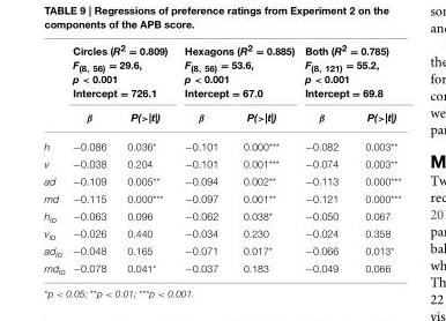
<table><thead><tr><td rowspan="2"></td><td colspan="2">Circles (R<sup>2</sup> = 0.809) F<sub>(8, 56)</sub> = 29.6, p &lt; 0.001 Intercept = 726.1</td><td colspan="2">Hexagons (R<sup>2</sup> = 0.885) F<sub>(8, 56)</sub> = 53.6, p &lt; 0.001 Intercept = 67.0</td><td colspan="2">Both (R<sup>2</sup> = 0.785) F<sub>(8, 121)</sub> = 55.2, p &lt; 0.001 Intercept = 69.8</td></tr><tr><td>β</td><td>P(&gt;|t|)</td><td>β</td><td>P(&gt;|t|)</td><td>β</td><td>P(&gt;|t|)</td></tr></thead><tbody><tr><td>h</td><td>−0.086</td><td>0.036*</td><td>−0.101</td><td>0.000***</td><td>−0.082</td><td>0.003**</td></tr><tr><td>v</td><td>−0.038</td><td>0.204</td><td>−0.101</td><td>0.001***</td><td>−0.074</td><td>0.003**</td></tr><tr><td>ad</td><td>−0.109</td><td>0.005**</td><td>−0.094</td><td>0.002**</td><td>−0.113</td><td>0.000***</td></tr><tr><td>md</td><td>−0.115</td><td>0.000***</td><td>−0.097</td><td>0.001**</td><td>−0.121</td><td>0.000***</td></tr><tr><td>hio</td><td>−0.063</td><td>0.096</td><td>−0.062</td><td>0.038*</td><td>−0.050</td><td>0.067</td></tr><tr><td>vio</td><td>−0.026</td><td>0.440</td><td>−0.034</td><td>0.230</td><td>−0.024</td><td>0.358</td></tr><tr><td>adio</td><td>−0.048</td><td>0.165</td><td>−0.071</td><td>0.017*</td><td>−0.066</td><td>0.013*</td></tr><tr><td>mdio</td><td>−0.078</td><td>0.041*</td><td>−0.037</td><td>0.183</td><td>−0.049</td><td>0.066</td></tr></tbody></table>